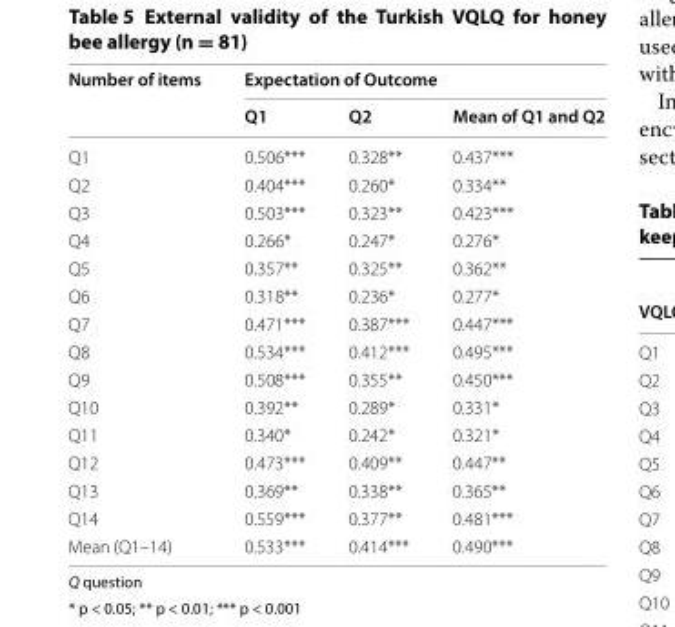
<table><thead><tr><td rowspan="2">Number of items</td><td colspan="3">Expectation of Outcome</td></tr><tr><td>Q1</td><td>Q2</td><td>Mean of Q1 and Q2</td></tr></thead><tbody><tr><td>Q1</td><td>0.506***</td><td>0.328**</td><td>0.437***</td></tr><tr><td>Q2</td><td>0.404***</td><td>0.260*</td><td>0.334**</td></tr><tr><td>Q3</td><td>0.503***</td><td>0.323**</td><td>0.423***</td></tr><tr><td>Q4</td><td>0.266*</td><td>0.247*</td><td>0.276*</td></tr><tr><td>Q5</td><td>0.357**</td><td>0.325**</td><td>0.362**</td></tr><tr><td>Q6</td><td>0.318**</td><td>0.236*</td><td>0.277*</td></tr><tr><td>Q7</td><td>0.471***</td><td>0.387***</td><td>0.447***</td></tr><tr><td>Q8</td><td>0.534***</td><td>0.412***</td><td>0.495***</td></tr><tr><td>Q9</td><td>0.508***</td><td>0.355**</td><td>0.450***</td></tr><tr><td>Q10</td><td>0.392**</td><td>0.289*</td><td>0.331*</td></tr><tr><td>Q11</td><td>0.340*</td><td>0.242*</td><td>0.321*</td></tr><tr><td>Q12</td><td>0.473***</td><td>0.409**</td><td>0.447**</td></tr><tr><td>Q13</td><td>0.369**</td><td>0.338**</td><td>0.365**</td></tr><tr><td>Q14</td><td>0.559***</td><td>0.377**</td><td>0.481***</td></tr><tr><td>Mean (Q1–14)</td><td>0.533***</td><td>0.414***</td><td>0.490***</td></tr></tbody></table>